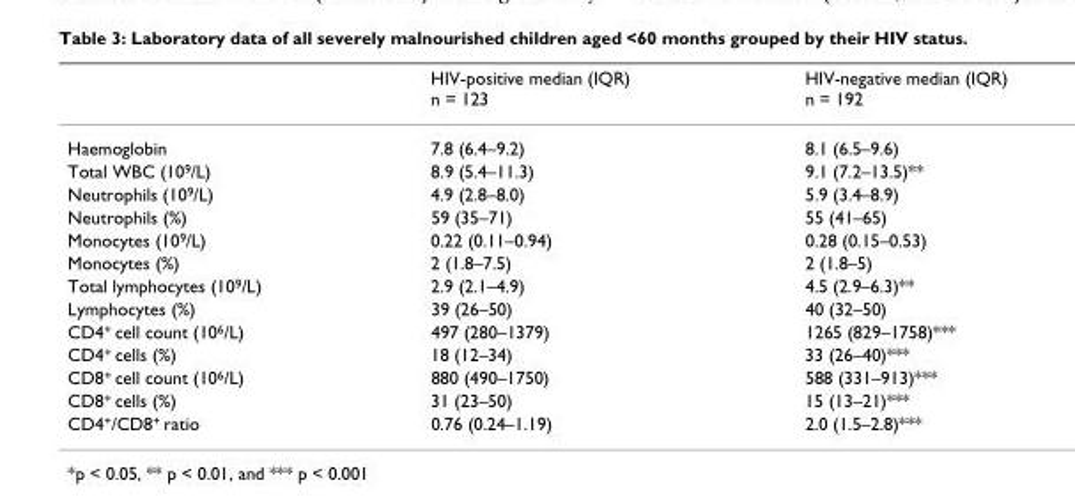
<table><thead><tr><td></td><td>HIV-positive median (IQR) n = 123</td><td>HIV-negative median (IQR) n = 192</td></tr></thead><tbody><tr><td>Haemoglobin</td><td>7.8 (6.4–9.2)</td><td>8.1 (6.5–9.6)</td></tr><tr><td>Total WBC (10<sup>9</sup>/L)</td><td>8.9 (5.4–11.3)</td><td>9.1 (7.2–13.5)**</td></tr><tr><td>Neutrophils (10<sup>9</sup>/L)</td><td>4.9 (2.8–8.0)</td><td>5.9 (3.4–8.9)</td></tr><tr><td>Neutrophils (%)</td><td>59 (35–71)</td><td>55 (41–65)</td></tr><tr><td>Monocytes (10<sup>9</sup>/L)</td><td>0.22 (0.11–0.94)</td><td>0.28 (0.15–0.53)</td></tr><tr><td>Monocytes (%)</td><td>2 (1.8–7.5)</td><td>2 (1.8–5)</td></tr><tr><td>Total lymphocytes (10<sup>9</sup>/L)</td><td>2.9 (2.1–4.9)</td><td>4.5 (2.9–6.3)**</td></tr><tr><td>Lymphocytes (%)</td><td>39 (26–50)</td><td>40 (32–50)</td></tr><tr><td>CD4<sup>+</sup> cell count (10<sup>6</sup>/L)</td><td>497 (280–1379)</td><td>1265 (829–1758)***</td></tr><tr><td>CD4<sup>+</sup> cells (%)</td><td>18 (12–34)</td><td>33 (26–40)***</td></tr><tr><td>CD8<sup>+</sup> cell count (10<sup>6</sup>/L)</td><td>880 (490–1750)</td><td>588 (331–913)***</td></tr><tr><td>CD8<sup>+</sup> cells (%)</td><td>31 (23–50)</td><td>15 (13–21)***</td></tr><tr><td>CD4<sup>+</sup>/CD8<sup>+</sup> ratio</td><td>0.76 (0.24–1.19)</td><td>2.0 (1.5–2.8)***</td></tr></tbody></table>